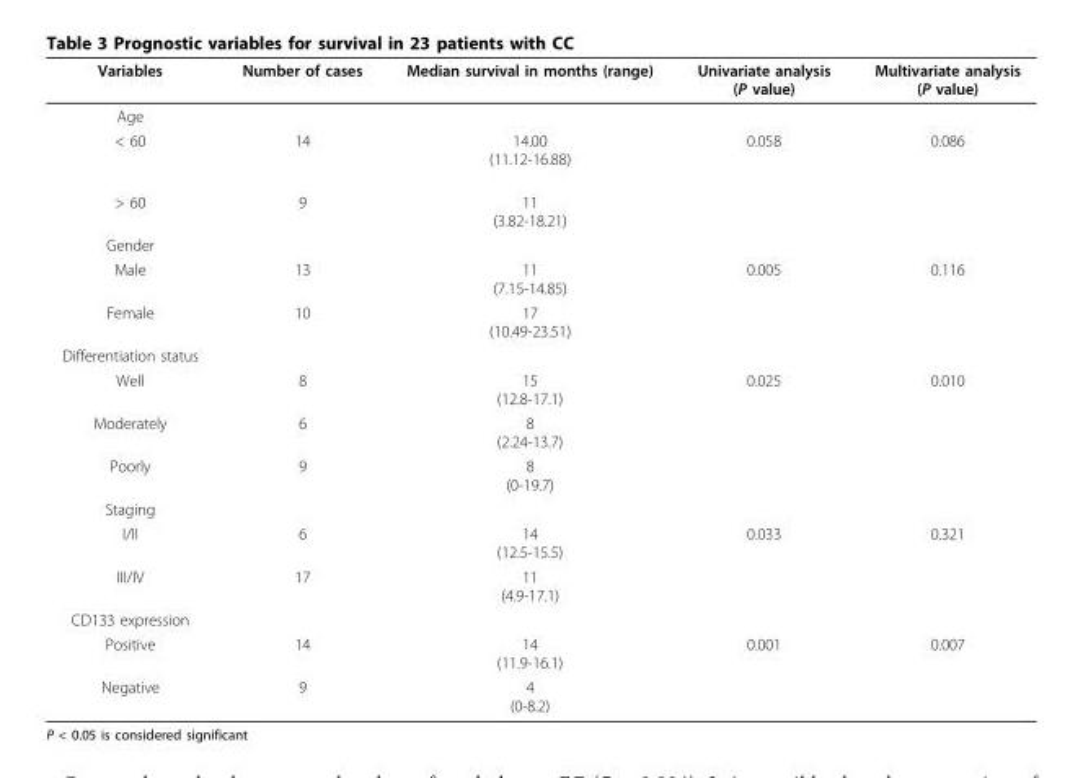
<table><thead><tr><td>Variables</td><td>Number of cases</td><td>Median survival in months (range)</td><td>Univariate analysis (P value)</td><td>Multivariate analysis (P value)</td></tr></thead><tbody><tr><td colspan="5">Age</td></tr><tr><td>&lt; 60</td><td>14</td><td>14.00 (11.12-16.88)</td><td>0.058</td><td>0.086</td></tr><tr><td>&gt; 60</td><td>9</td><td>11 (3.82-18.21)</td><td></td><td></td></tr><tr><td colspan="5">Gender</td></tr><tr><td>Male</td><td>13</td><td>11 (7.15-14.85)</td><td>0.005</td><td>0.116</td></tr><tr><td>Female</td><td>10</td><td>17 (10.49-23.51)</td><td></td><td></td></tr><tr><td colspan="5">Differentiation status</td></tr><tr><td>Well</td><td>8</td><td>15 (12.8-17.1)</td><td>0.025</td><td>0.010</td></tr><tr><td>Moderately</td><td>6</td><td>8 (2.24-13.7)</td><td></td><td></td></tr><tr><td>Poorly</td><td>9</td><td>8 (0-19.7)</td><td></td><td></td></tr><tr><td colspan="5">Staging</td></tr><tr><td>I/II</td><td>6</td><td>14 (12.5-15.5)</td><td>0.033</td><td>0.321</td></tr><tr><td>III/IV</td><td>17</td><td>11 (4.9-17.1)</td><td></td><td></td></tr><tr><td colspan="5">CD133 expression</td></tr><tr><td>Positive</td><td>14</td><td>14 (11.9-16.1)</td><td>0.001</td><td>0.007</td></tr><tr><td>Negative</td><td>9</td><td>4 (0-8.2)</td><td></td><td></td></tr></tbody></table>